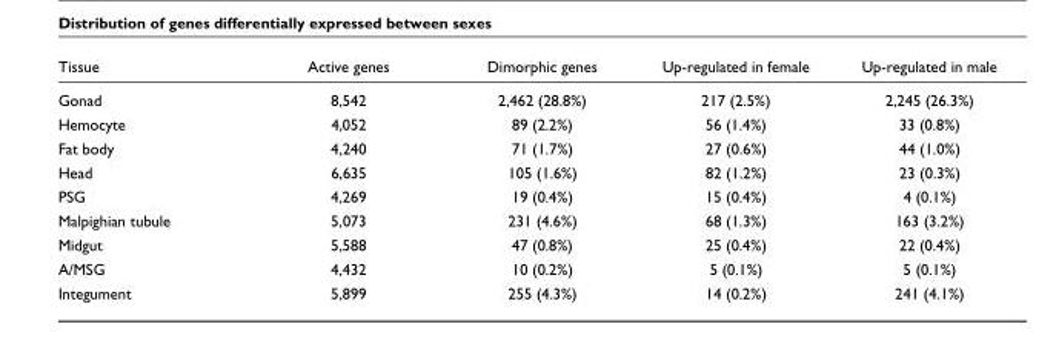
<table><thead><tr><td>Tissue</td><td>Active genes</td><td>Dimorphic genes</td><td>Up-regulated in female</td><td>Up-regulated in male</td></tr></thead><tbody><tr><td>Gonad</td><td>8,542</td><td>2,462 (28.8%)</td><td>217 (2.5%)</td><td>2,245 (26.3%)</td></tr><tr><td>Hemocyte</td><td>4,052</td><td>89 (2.2%)</td><td>56 (1.4%)</td><td>33 (0.8%)</td></tr><tr><td>Fat body</td><td>4,240</td><td>71 (1.7%)</td><td>27 (0.6%)</td><td>44 (1.0%)</td></tr><tr><td>Head</td><td>6,635</td><td>105 (1.6%)</td><td>82 (1.2%)</td><td>23 (0.3%)</td></tr><tr><td>PSG</td><td>4,269</td><td>19 (0.4%)</td><td>15 (0.4%)</td><td>4 (0.1%)</td></tr><tr><td>Malpighian tubule</td><td>5,073</td><td>231 (4.6%)</td><td>68 (1.3%)</td><td>163 (3.2%)</td></tr><tr><td>Midgut</td><td>5,588</td><td>47 (0.8%)</td><td>25 (0.4%)</td><td>22 (0.4%)</td></tr><tr><td>A/MSG</td><td>4,432</td><td>10 (0.2%)</td><td>5 (0.1%)</td><td>5 (0.1%)</td></tr><tr><td>Integument</td><td>5,899</td><td>255 (4.3%)</td><td>14 (0.2%)</td><td>241 (4.1%)</td></tr></tbody></table>